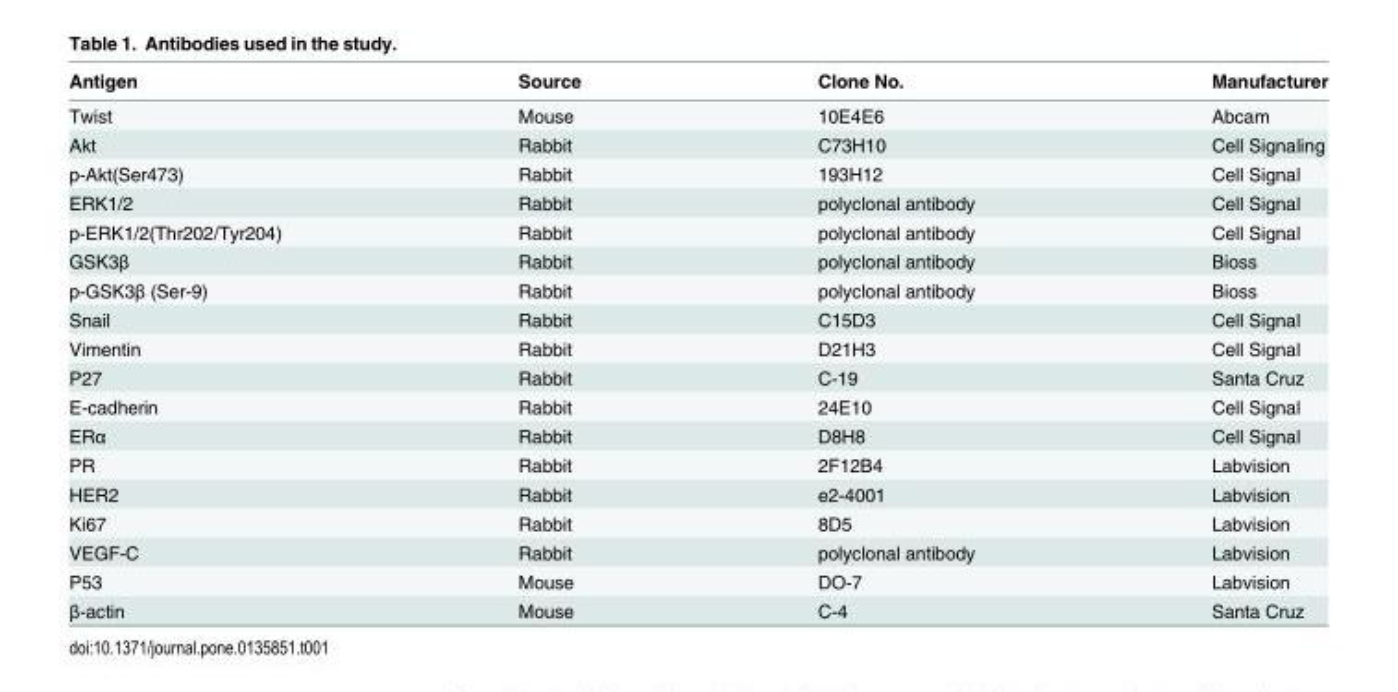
<table><thead><tr><td>Antigen</td><td>Source</td><td>Clone No.</td><td>Manufacturer</td></tr></thead><tbody><tr><td>Twist</td><td>Mouse</td><td>10E4E6</td><td>Abcam</td></tr><tr><td>Akt</td><td>Rabbit</td><td>C73H10</td><td>Cell Signaling</td></tr><tr><td>p-Akt(Ser473)</td><td>Rabbit</td><td>193H12</td><td>Cell Signal</td></tr><tr><td>ERK1/2</td><td>Rabbit</td><td>polyclonal antibody</td><td>Cell Signal</td></tr><tr><td>p-ERK1/2(Thr202/Tyr204)</td><td>Rabbit</td><td>polyclonal antibody</td><td>Cell Signal</td></tr><tr><td>GSK3β</td><td>Rabbit</td><td>polyclonal antibody</td><td>Bioss</td></tr><tr><td>p-GSK3β (Ser-9)</td><td>Rabbit</td><td>polyclonal antibody</td><td>Bioss</td></tr><tr><td>Snail</td><td>Rabbit</td><td>C15D3</td><td>Cell Signal</td></tr><tr><td>Vimentin</td><td>Rabbit</td><td>D21H3</td><td>Cell Signal</td></tr><tr><td>P27</td><td>Rabbit</td><td>C-19</td><td>Santa Cruz</td></tr><tr><td>E-cadherin</td><td>Rabbit</td><td>24E10</td><td>Cell Signal</td></tr><tr><td>ERα</td><td>Rabbit</td><td>D8H8</td><td>Cell Signal</td></tr><tr><td>PR</td><td>Rabbit</td><td>2F12B4</td><td>Labvision</td></tr><tr><td>HER2</td><td>Rabbit</td><td>e2-4001</td><td>Labvision</td></tr><tr><td>Ki67</td><td>Rabbit</td><td>8D5</td><td>Labvision</td></tr><tr><td>VEGF-C</td><td>Rabbit</td><td>polyclonal antibody</td><td>Labvision</td></tr><tr><td>P53</td><td>Mouse</td><td>DO-7</td><td>Labvision</td></tr><tr><td>β-actin</td><td>Mouse</td><td>C-4</td><td>Santa Cruz</td></tr></tbody></table>